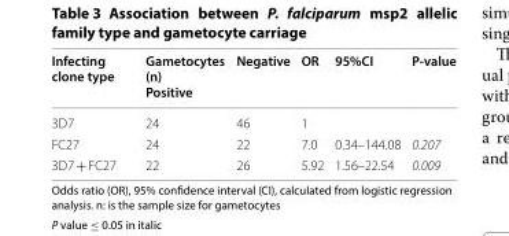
<table><thead><tr><td>Infecting clone type</td><td>Gametocytes (n) Positive</td><td>Negative</td><td>OR</td><td>95%CI</td><td>P‑value</td></tr></thead><tbody><tr><td>3D7</td><td>24</td><td>46</td><td>1</td><td></td><td></td></tr><tr><td>FC27</td><td>24</td><td>22</td><td>7.0</td><td>0.34–144.08</td><td>0.207</td></tr><tr><td>3D7 + FC27</td><td>22</td><td>26</td><td>5.92</td><td>1.56–22.54</td><td>0.009</td></tr></tbody></table>